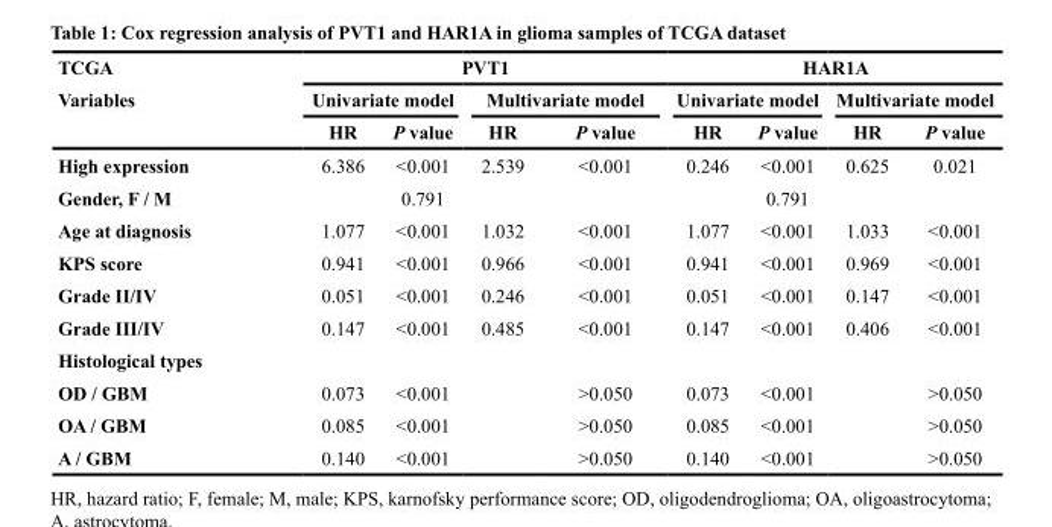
<table><thead><tr><td rowspan="3">TCGA Variables</td><td colspan="4">PVT1</td><td colspan="4">HAR1A</td></tr><tr><td colspan="2">Univariate model</td><td colspan="2">Multivariate model</td><td colspan="2">Univariate model</td><td colspan="2">Multivariate model</td></tr><tr><td>HR</td><td>P value</td><td>HR</td><td>P value</td><td>HR</td><td>P value</td><td>HR</td><td>P value</td></tr></thead><tbody><tr><td>High expression</td><td>6.386</td><td>&lt;0.001</td><td>2.539</td><td>&lt;0.001</td><td>0.246</td><td>&lt;0.001</td><td>0.625</td><td>0.021</td></tr><tr><td>Gender, F / M</td><td></td><td>0.791</td><td></td><td></td><td></td><td>0.791</td><td></td><td></td></tr><tr><td>Age at diagnosis</td><td>1.077</td><td>&lt;0.001</td><td>1.032</td><td>&lt;0.001</td><td>1.077</td><td>&lt;0.001</td><td>1.033</td><td>&lt;0.001</td></tr><tr><td>KPS score</td><td>0.941</td><td>&lt;0.001</td><td>0.966</td><td>&lt;0.001</td><td>0.941</td><td>&lt;0.001</td><td>0.969</td><td>&lt;0.001</td></tr><tr><td>Grade II/IV</td><td>0.051</td><td>&lt;0.001</td><td>0.246</td><td>&lt;0.001</td><td>0.051</td><td>&lt;0.001</td><td>0.147</td><td>&lt;0.001</td></tr><tr><td>Grade III/IV</td><td>0.147</td><td>&lt;0.001</td><td>0.485</td><td>&lt;0.001</td><td>0.147</td><td>&lt;0.001</td><td>0.406</td><td>&lt;0.001</td></tr><tr><td colspan="9">Histological types</td></tr><tr><td>OD / GBM</td><td>0.073</td><td>&lt;0.001</td><td></td><td>&gt;0.050</td><td>0.073</td><td>&lt;0.001</td><td></td><td>&gt;0.050</td></tr><tr><td>OA / GBM</td><td>0.085</td><td>&lt;0.001</td><td></td><td>&gt;0.050</td><td>0.085</td><td>&lt;0.001</td><td></td><td>&gt;0.050</td></tr><tr><td>A / GBM</td><td>0.140</td><td>&lt;0.001</td><td></td><td>&gt;0.050</td><td>0.140</td><td>&lt;0.001</td><td></td><td>&gt;0.050</td></tr></tbody></table>